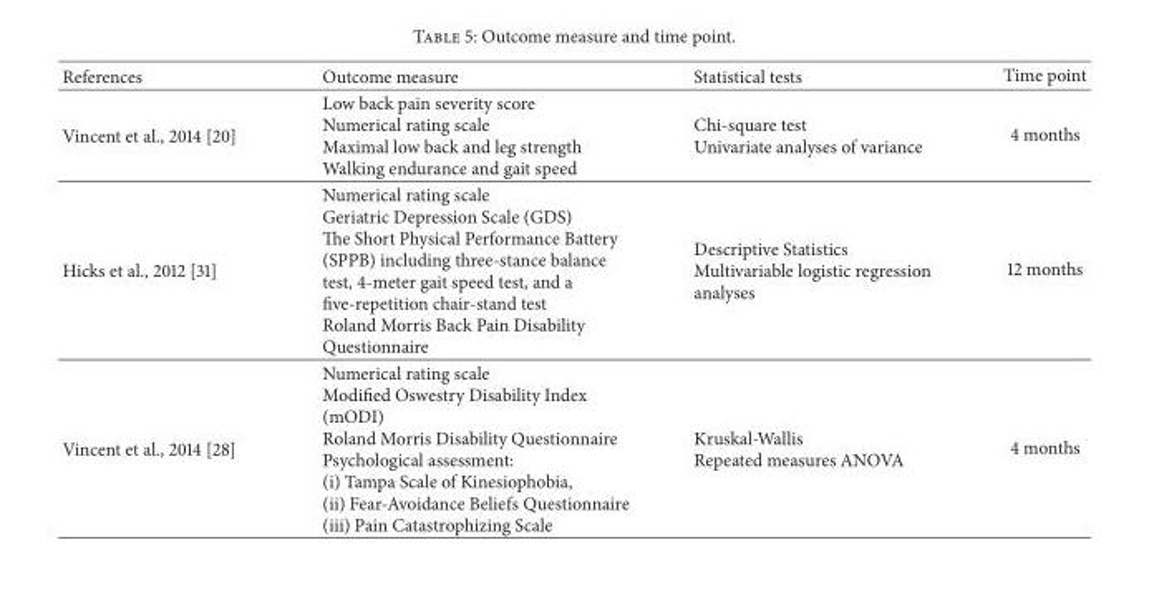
<table><thead><tr><td>References</td><td>Outcome measure</td><td>Statistical tests</td><td>Time point</td></tr></thead><tbody><tr><td>Vincent et al., 2014 [20]</td><td>Low back pain severity score Numerical rating scale Maximal low back and leg strength Walking endurance and gait speed</td><td>Chi-square test Univariate analyses of variance</td><td>4 months</td></tr><tr><td>Hicks et al., 2012 [31]</td><td>Numerical rating scale Geriatric Depression Scale (GDS) The Short Physical Performance Battery (SPPB) including three-stance balance test, 4-meter gait speed test, and a five-repetition chair-stand test Roland Morris Back Pain Disability Questionnaire</td><td>Descriptive Statistics Multivariable logistic regression analyses</td><td>12 months</td></tr><tr><td>Vincent et al., 2014 [28]</td><td>Numerical rating scale Modified Oswestry Disability Index (mODI) Roland Morris Disability Questionnaire Psychological assessment: (i) Tampa Scale of Kinesiophobia, (ii) Fear-Avoidance Beliefs Questionnaire (iii) Pain Catastrophizing Scale</td><td>Kruskal-Wallis Repeated measures ANOVA</td><td>4 months</td></tr></tbody></table>